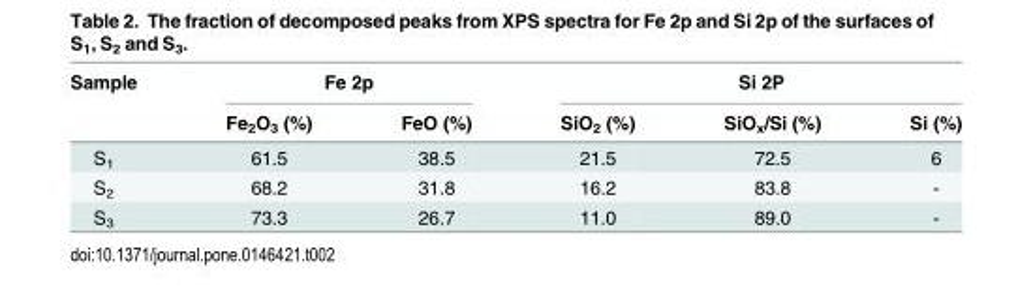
<table><thead><tr><td rowspan="2">Sample</td><td colspan="2">Fe 2p</td><td colspan="3">Si 2P</td></tr><tr><td>Fe<sub>2</sub>O<sub>3</sub> (%)</td><td>FeO (%)</td><td>SiO<sub>2</sub> (%)</td><td>SiO<sub>x</sub>/Si (%)</td><td>Si (%)</td></tr></thead><tbody><tr><td>S<sub>1</sub></td><td>61.5</td><td>38.5</td><td>21.5</td><td>72.5</td><td>6</td></tr><tr><td>S<sub>2</sub></td><td>68.2</td><td>31.8</td><td>16.2</td><td>83.8</td><td>-</td></tr><tr><td>S<sub>3</sub></td><td>73.3</td><td>26.7</td><td>11.0</td><td>89.0</td><td>-</td></tr></tbody></table>